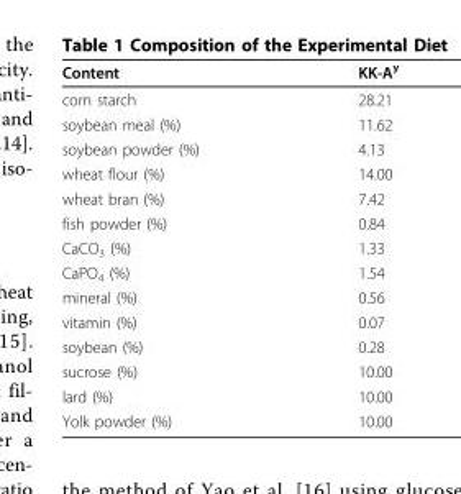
<table><thead><tr><td>Content</td><td>KK-A<sup>y</sup></td></tr></thead><tbody><tr><td>corn starch</td><td>28.21</td></tr><tr><td>soybean meal (%)</td><td>11.62</td></tr><tr><td>soybean powder (%)</td><td>4.13</td></tr><tr><td>wheat flour (%)</td><td>14.00</td></tr><tr><td>wheat bran (%)</td><td>7.42</td></tr><tr><td>fish powder (%)</td><td>0.84</td></tr><tr><td>CaCO<sub>3</sub> (%)</td><td>1.33</td></tr><tr><td>CaPO<sub>4</sub> (%)</td><td>1.54</td></tr><tr><td>mineral (%)</td><td>0.56</td></tr><tr><td>vitamin (%)</td><td>0.07</td></tr><tr><td>soybean (%)</td><td>0.28</td></tr><tr><td>sucrose (%)</td><td>10.00</td></tr><tr><td>lard (%)</td><td>10.00</td></tr><tr><td>Yolk powder (%)</td><td>10.00</td></tr></tbody></table>